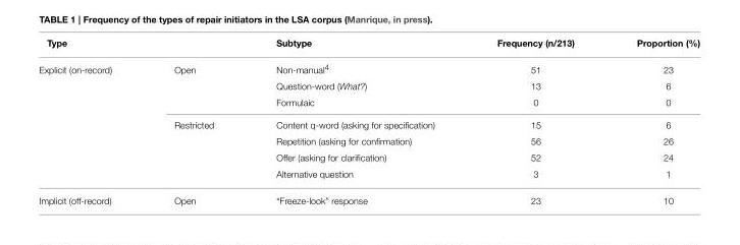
<table><thead><tr><td colspan="2">Type</td><td rowspan="2">Subtype Non-manual<sup>4</sup></td><td rowspan="2">Frequency (n/213) 51</td><td rowspan="2">Proportion (%) 23</td></tr><tr><td>Explicit (on-record)</td><td>Open</td></tr></thead><tbody><tr><td></td><td></td><td>Question-word (What?)</td><td>13</td><td>6</td></tr><tr><td></td><td></td><td>Formulaic</td><td>0</td><td>0</td></tr><tr><td></td><td>Restricted</td><td>Content q-word (asking for specification)</td><td>15</td><td>6</td></tr><tr><td></td><td></td><td>Repetition (asking for confirmation)</td><td>56</td><td>26</td></tr><tr><td></td><td></td><td>Offer (asking for clarification)</td><td>52</td><td>24</td></tr><tr><td></td><td></td><td>Alternative question</td><td>3</td><td>1</td></tr><tr><td>Implicit (off-record)</td><td>Open</td><td>“Freeze-look” response</td><td>23</td><td>10</td></tr></tbody></table>